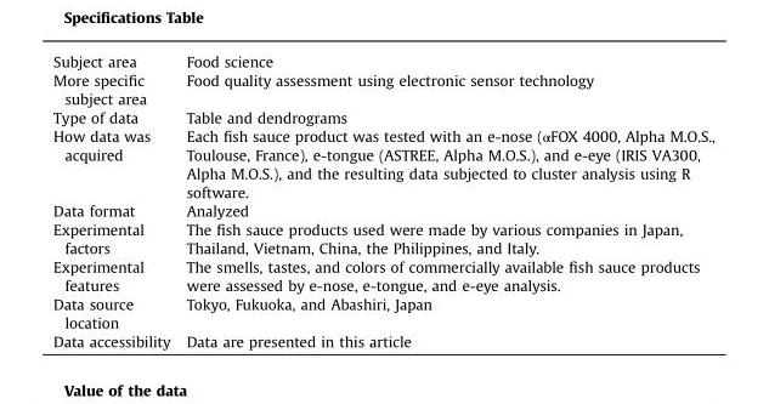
<table><tbody><tr><td>Subject area</td><td>Food science</td></tr><tr><td>More specific subject area</td><td>Food quality assessment using electronic sensor technology</td></tr><tr><td>Type of data</td><td>Table and dendrograms</td></tr><tr><td>How data was acquired</td><td>Each fish sauce product was tested with an e-nose (αFOX 4000, Alpha M.O.S., Toulouse, France), e-tongue (ASTREE, Alpha M.O.S.), and e-eye (IRIS VA300, Alpha M.O.S.), and the resulting data subjected to cluster analysis using R software.</td></tr><tr><td>Data format</td><td>Analyzed</td></tr><tr><td>Experimental factors</td><td>The fish sauce products used were made by various companies in Japan, Thailand, Vietnam, China, the Philippines, and Italy.</td></tr><tr><td>Experimental features</td><td>The smells, tastes, and colors of commercially available fish sauce products were assessed by e-nose, e-tongue, and e-eye analysis.</td></tr><tr><td>Data source location</td><td>Tokyo, Fukuoka, and Abashiri, Japan</td></tr><tr><td>Data accessibility</td><td>Data are presented in this article</td></tr></tbody></table>